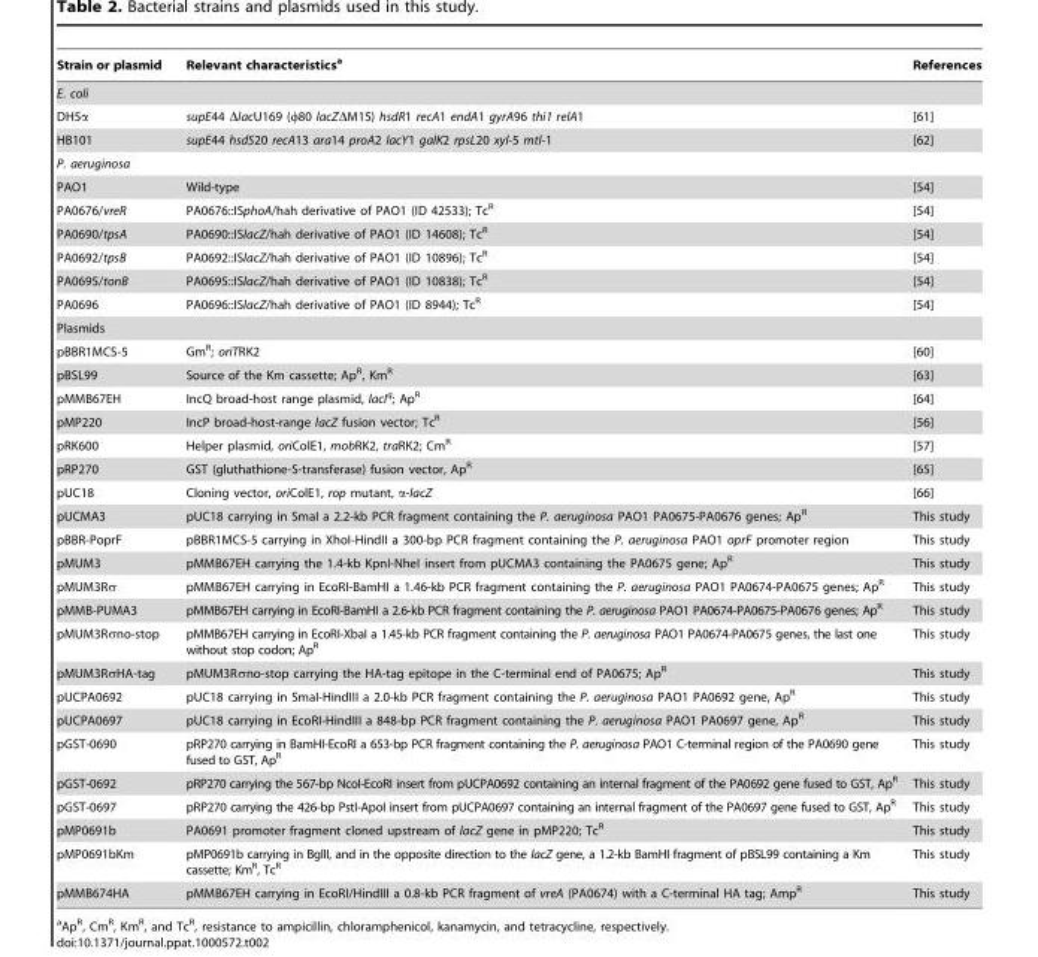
<table><thead><tr><td>Strain or plasmid</td><td>Relevant characteristics<sup>a</sup></td><td>References</td></tr></thead><tbody><tr><td colspan="3">E. coli</td></tr><tr><td>DH5α</td><td>supE44 ΔlacU169 (φ80 lacZΔM15) hsdR1 recA1 endA1 gyrA96 thi1 relA1</td><td>[61]</td></tr><tr><td>HB101</td><td>supE44 hsdS20 recA13 ara14 proA2 lacY1 galK2 rpsL20 xyl-5 mtl-1</td><td>[62]</td></tr><tr><td colspan="3">P. aeruginosa</td></tr><tr><td>PAO1</td><td>Wild-type</td><td>[54]</td></tr><tr><td>PA0676/vreR</td><td>PA0676::ISphoA/hah derivative of PAO1 (ID 42533); Tc<sup>R</sup></td><td>[54]</td></tr><tr><td>PA0690/tpsA</td><td>PA0690::ISlacZ/hah derivative of PAO1 (ID 14608); Tc<sup>R</sup></td><td>[54]</td></tr><tr><td>PA0692/tpsB</td><td>PA0692::ISlacZ/hah derivative of PAO1 (ID 10896); Tc<sup>R</sup></td><td>[54]</td></tr><tr><td>PA0695/tonB</td><td>PA0695::ISlacZ/hah derivative of PAO1 (ID 10838); Tc<sup>R</sup></td><td>[54]</td></tr><tr><td>PA0696</td><td>PA0696::ISlacZ/hah derivative of PAO1 (ID 8944); Tc<sup>R</sup></td><td>[54]</td></tr><tr><td colspan="3">Plasmids</td></tr><tr><td>pBBR1MCS-5</td><td>Gm<sup>R</sup>; oriTRK2</td><td>[60]</td></tr><tr><td>pBSL99</td><td>Source of the Km cassette; Ap<sup>R</sup>, Km<sup>R</sup></td><td>[63]</td></tr><tr><td>pMMB67EH</td><td>IncQ broad-host range plasmid, lacI<sup>q</sup>; Ap<sup>R</sup></td><td>[64]</td></tr><tr><td>pMP220</td><td>IncP broad-host-range lacZ fusion vector; Tc<sup>R</sup></td><td>[56]</td></tr><tr><td>pRK600</td><td>Helper plasmid, oriColE1, mobRK2, traRK2; Cm<sup>R</sup></td><td>[57]</td></tr><tr><td>pRP270</td><td>GST (gluthathione-S-transferase) fusion vector, Ap<sup>R</sup></td><td>[65]</td></tr><tr><td>pUC18</td><td>Cloning vector, oriColE1, rop mutant, α-lacZ</td><td>[66]</td></tr><tr><td>pUCMA3</td><td>pUC18 carrying in SmaI a 2.2-kb PCR fragment containing the P. aeruginosa PAO1 PA0675-PA0676 genes; Ap<sup>R</sup></td><td>This study</td></tr><tr><td>pBBR-PoprF</td><td>pBBR1MCS-5 carrying in XhoI-HindII a 300-bp PCR fragment containing the P. aeruginosa PAO1 oprF promoter region</td><td>This study</td></tr><tr><td>pMUM3</td><td>pMMB67EH carrying the 1.4-kb KpnI-NheI insert from pUCMA3 containing the PA0675 gene; Ap<sup>R</sup></td><td>This study</td></tr><tr><td>pMUM3Rσ</td><td>pMMB67EH carrying in EcoRI-BamHI a 1.46-kb PCR fragment containing the P. aeruginosa PAO1 PA0674-PA0675 genes; Ap<sup>R</sup></td><td>This study</td></tr><tr><td>pMMB-PUMA3</td><td>pMMB67EH carrying in EcoRI-BamHI a 2.6-kb PCR fragment containing the P. aeruginosa PAO1 PA0674-PA0675-PA0676 genes; Ap<sup>R</sup></td><td>This study</td></tr><tr><td>pMUM3Rσno-stop</td><td>pMMB67EH carrying in EcoRI-XbaI a 1.45-kb PCR fragment containing the P. aeruginosa PAO1 PA0674-PA0675 genes, the last one without stop codon; Ap<sup>R</sup></td><td>This study</td></tr><tr><td>pMUM3RσHA-tag</td><td>pMUM3Rσno-stop carrying the HA-tag epitope in the C-terminal end of PA0675; Ap<sup>R</sup></td><td>This study</td></tr><tr><td>pUCPA0692</td><td>pUC18 carrying in SmaI-HindIII a 2.0-kb PCR fragment containing the P. aeruginosa PAO1 PA0692 gene, Ap<sup>R</sup></td><td>This study</td></tr><tr><td>pUCPA0697</td><td>pUC18 carrying in EcoRI-HindIII a 848-bp PCR fragment containing the P. aeruginosa PAO1 PA0697 gene, Ap<sup>R</sup></td><td>This study</td></tr><tr><td>pGST-0690</td><td>pRP270 carrying in BamHI-EcoRI a 653-bp PCR fragment containing the P. aeruginosa PAO1 C-terminal region of the PA0690 gene fused to GST, Ap<sup>R</sup></td><td>This study</td></tr><tr><td>pGST-0692</td><td>pRP270 carrying the 567-bp NcoI-EcoRI insert from pUCPA0692 containing an internal fragment of the PA0692 gene fused to GST, Ap<sup>R</sup></td><td>This study</td></tr><tr><td>pGST-0697</td><td>pRP270 carrying the 426-bp PstI-ApoI insert from pUCPA0697 containing an internal fragment of the PA0697 gene fused to GST, Ap<sup>R</sup></td><td>This study</td></tr><tr><td>pMP0691b</td><td>PA0691 promoter fragment cloned upstream of lacZ gene in pMP220; Tc<sup>R</sup></td><td>This study</td></tr><tr><td>pMP0691bKm</td><td>pMP0691b carrying in BglII, and in the opposite direction to the lacZ gene, a 1.2-kb BamHI fragment of pBSL99 containing a Km cassette; Km<sup>R</sup>, Tc<sup>R</sup></td><td>This study</td></tr><tr><td>pMMB674HA</td><td>pMMB67EH carrying in EcoRI/HindIII a 0.8-kb PCR fragment of vreA (PA0674) with a C-terminal HA tag; Amp<sup>R</sup></td><td>This study</td></tr></tbody></table>